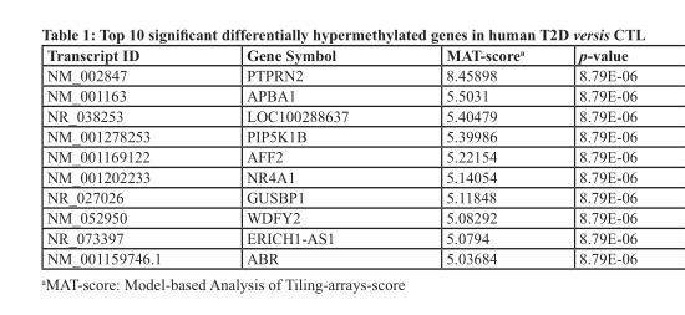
<table><thead><tr><td>Transcript ID</td><td>Gene Symbol</td><td>MAT-score<sup>a</sup></td><td>p-value</td></tr></thead><tbody><tr><td>NM_002847</td><td>PTPRN2</td><td>8.45898</td><td>8.79E-06</td></tr><tr><td>NM_001163</td><td>APBA1</td><td>5.5031</td><td>8.79E-06</td></tr><tr><td>NR_038253</td><td>LOC100288637</td><td>5.40479</td><td>8.79E-06</td></tr><tr><td>NM_001278253</td><td>PIP5K1B</td><td>5.39986</td><td>8.79E-06</td></tr><tr><td>NM_001169122</td><td>AFF2</td><td>5.22154</td><td>8.79E-06</td></tr><tr><td>NM_001202233</td><td>NR4A1</td><td>5.14054</td><td>8.79E-06</td></tr><tr><td>NR_027026</td><td>GUSBP1</td><td>5.11848</td><td>8.79E-06</td></tr><tr><td>NM_052950</td><td>WDFY2</td><td>5.08292</td><td>8.79E-06</td></tr><tr><td>NR_073397</td><td>ERICH1-AS1</td><td>5.0794</td><td>8.79E-06</td></tr><tr><td>NM_001159746.1</td><td>ABR</td><td>5.03684</td><td>8.79E-06</td></tr></tbody></table>